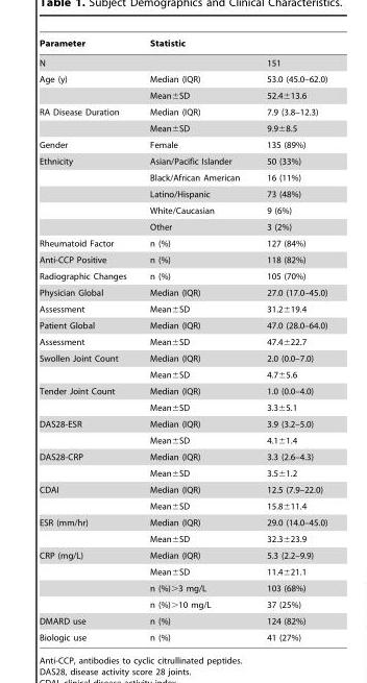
<table><thead><tr><td>Parameter</td><td>Statistic</td><td></td></tr></thead><tbody><tr><td>N</td><td></td><td>151</td></tr><tr><td rowspan="2">Age (y)</td><td>Median (IQR)</td><td>53.0 (45.0–62.0)</td></tr><tr><td>Mean±SD</td><td>52.4±13.6</td></tr><tr><td rowspan="2">RA Disease Duration</td><td>Median (IQR)</td><td>7.9 (3.8–12.3)</td></tr><tr><td>Mean±SD</td><td>9.9±8.5</td></tr><tr><td>Gender</td><td>Female</td><td>135 (89%)</td></tr><tr><td rowspan="5">Ethnicity</td><td>Asian/Pacific Islander</td><td>50 (33%)</td></tr><tr><td>Black/African American</td><td>16 (11%)</td></tr><tr><td>Latino/Hispanic</td><td>73 (48%)</td></tr><tr><td>White/Caucasian</td><td>9 (6%)</td></tr><tr><td>Other</td><td>3 (2%)</td></tr><tr><td>Rheumatoid Factor</td><td>n (%)</td><td>127 (84%)</td></tr><tr><td>Anti-CCP Positive</td><td>n (%)</td><td>118 (82%)</td></tr><tr><td>Radiographic Changes</td><td>n (%)</td><td>105 (70%)</td></tr><tr><td>Physician Global</td><td>Median (IQR)</td><td>27.0 (17.0–45.0)</td></tr><tr><td>Assessment</td><td>Mean±SD</td><td>31.2±19.4</td></tr><tr><td>Patient Global</td><td>Median (IQR)</td><td>47.0 (28.0–64.0)</td></tr><tr><td>Assessment</td><td>Mean±SD</td><td>47.4±22.7</td></tr><tr><td rowspan="2">Swollen Joint Count</td><td>Median (IQR)</td><td>2.0 (0.0–7.0)</td></tr><tr><td>Mean±SD</td><td>4.7±5.6</td></tr><tr><td rowspan="2">Tender Joint Count</td><td>Median (IQR)</td><td>1.0 (0.0–4.0)</td></tr><tr><td>Mean±SD</td><td>3.3±5.1</td></tr><tr><td rowspan="2">DAS28-ESR</td><td>Median (IQR)</td><td>3.9 (3.2–5.0)</td></tr><tr><td>Mean±SD</td><td>4.1±1.4</td></tr><tr><td rowspan="2">DAS28-CRP</td><td>Median (IQR)</td><td>3.3 (2.6–4.3)</td></tr><tr><td>Mean±SD</td><td>3.5±1.2</td></tr><tr><td rowspan="2">CDAI</td><td>Median (IQR)</td><td>12.5 (7.9–22.0)</td></tr><tr><td>Mean±SD</td><td>15.8±11.4</td></tr><tr><td rowspan="2">ESR (mm/hr)</td><td>Median (IQR)</td><td>29.0 (14.0–45.0)</td></tr><tr><td>Mean±SD</td><td>32.3±23.9</td></tr><tr><td rowspan="4">CRP (mg/L)</td><td>Median (IQR)</td><td>5.3 (2.2–9.9)</td></tr><tr><td>Mean±SD</td><td>11.4±21.1</td></tr><tr><td>n (%)&gt;3 mg/L</td><td>103 (68%)</td></tr><tr><td>n (%)&gt;10 mg/L</td><td>37 (25%)</td></tr><tr><td>DMARD use</td><td>n (%)</td><td>124 (82%)</td></tr><tr><td>Biologic use</td><td>n (%)</td><td>41 (27%)</td></tr></tbody></table>